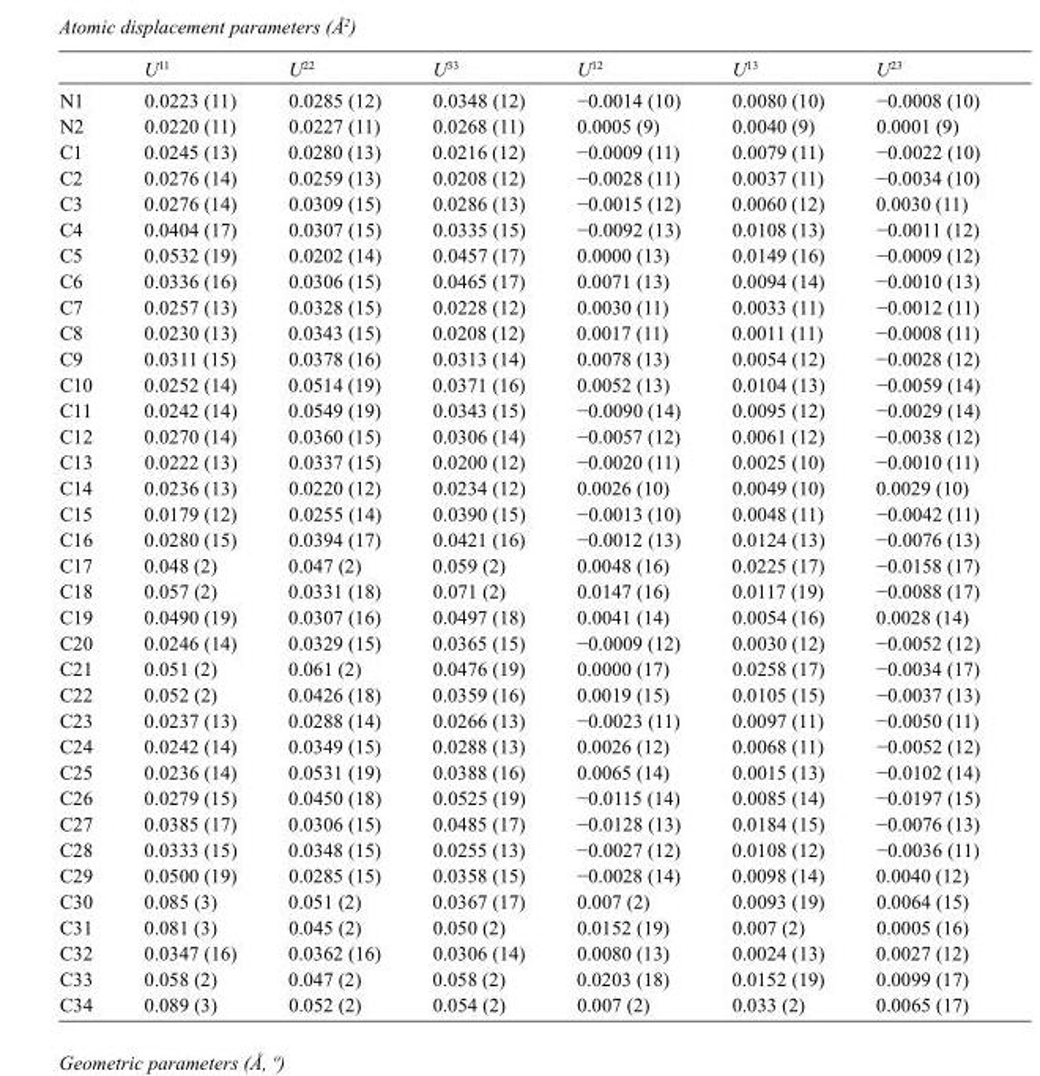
<table><thead><tr><td></td><td>U<sup>11</sup></td><td>U<sup>22</sup></td><td>U<sup>33</sup></td><td>U<sup>12</sup></td><td>U<sup>13</sup></td><td>U<sup>23</sup></td></tr></thead><tbody><tr><td>N1</td><td>0.0223 (11)</td><td>0.0285 (12)</td><td>0.0348 (12)</td><td>−0.0014 (10)</td><td>0.0080 (10)</td><td>−0.0008 (10)</td></tr><tr><td>N2</td><td>0.0220 (11)</td><td>0.0227 (11)</td><td>0.0268 (11)</td><td>0.0005 (9)</td><td>0.0040 (9)</td><td>0.0001 (9)</td></tr><tr><td>C1</td><td>0.0245 (13)</td><td>0.0280 (13)</td><td>0.0216 (12)</td><td>−0.0009 (11)</td><td>0.0079 (11)</td><td>−0.0022 (10)</td></tr><tr><td>C2</td><td>0.0276 (14)</td><td>0.0259 (13)</td><td>0.0208 (12)</td><td>−0.0028 (11)</td><td>0.0037 (11)</td><td>−0.0034 (10)</td></tr><tr><td>C3</td><td>0.0276 (14)</td><td>0.0309 (15)</td><td>0.0286 (13)</td><td>−0.0015 (12)</td><td>0.0060 (12)</td><td>0.0030 (11)</td></tr><tr><td>C4</td><td>0.0404 (17)</td><td>0.0307 (15)</td><td>0.0335 (15)</td><td>−0.0092 (13)</td><td>0.0108 (13)</td><td>−0.0011 (12)</td></tr><tr><td>C5</td><td>0.0532 (19)</td><td>0.0202 (14)</td><td>0.0457 (17)</td><td>0.0000 (13)</td><td>0.0149 (16)</td><td>−0.0009 (12)</td></tr><tr><td>C6</td><td>0.0336 (16)</td><td>0.0306 (15)</td><td>0.0465 (17)</td><td>0.0071 (13)</td><td>0.0094 (14)</td><td>−0.0010 (13)</td></tr><tr><td>C7</td><td>0.0257 (13)</td><td>0.0328 (15)</td><td>0.0228 (12)</td><td>0.0030 (11)</td><td>0.0033 (11)</td><td>−0.0012 (11)</td></tr><tr><td>C8</td><td>0.0230 (13)</td><td>0.0343 (15)</td><td>0.0208 (12)</td><td>0.0017 (11)</td><td>0.0011 (11)</td><td>−0.0008 (11)</td></tr><tr><td>C9</td><td>0.0311 (15)</td><td>0.0378 (16)</td><td>0.0313 (14)</td><td>0.0078 (13)</td><td>0.0054 (12)</td><td>−0.0028 (12)</td></tr><tr><td>C10</td><td>0.0252 (14)</td><td>0.0514 (19)</td><td>0.0371 (16)</td><td>0.0052 (13)</td><td>0.0104 (13)</td><td>−0.0059 (14)</td></tr><tr><td>C11</td><td>0.0242 (14)</td><td>0.0549 (19)</td><td>0.0343 (15)</td><td>−0.0090 (14)</td><td>0.0095 (12)</td><td>−0.0029 (14)</td></tr><tr><td>C12</td><td>0.0270 (14)</td><td>0.0360 (15)</td><td>0.0306 (14)</td><td>−0.0057 (12)</td><td>0.0061 (12)</td><td>−0.0038 (12)</td></tr><tr><td>C13</td><td>0.0222 (13)</td><td>0.0337 (15)</td><td>0.0200 (12)</td><td>−0.0020 (11)</td><td>0.0025 (10)</td><td>−0.0010 (11)</td></tr><tr><td>C14</td><td>0.0236 (13)</td><td>0.0220 (12)</td><td>0.0234 (12)</td><td>0.0026 (10)</td><td>0.0049 (10)</td><td>0.0029 (10)</td></tr><tr><td>C15</td><td>0.0179 (12)</td><td>0.0255 (14)</td><td>0.0390 (15)</td><td>−0.0013 (10)</td><td>0.0048 (11)</td><td>−0.0042 (11)</td></tr><tr><td>C16</td><td>0.0280 (15)</td><td>0.0394 (17)</td><td>0.0421 (16)</td><td>−0.0012 (13)</td><td>0.0124 (13)</td><td>−0.0076 (13)</td></tr><tr><td>C17</td><td>0.048 (2)</td><td>0.047 (2)</td><td>0.059 (2)</td><td>0.0048 (16)</td><td>0.0225 (17)</td><td>−0.0158 (17)</td></tr><tr><td>C18</td><td>0.057 (2)</td><td>0.0331 (18)</td><td>0.071 (2)</td><td>0.0147 (16)</td><td>0.0117 (19)</td><td>−0.0088 (17)</td></tr><tr><td>C19</td><td>0.0490 (19)</td><td>0.0307 (16)</td><td>0.0497 (18)</td><td>0.0041 (14)</td><td>0.0054 (16)</td><td>0.0028 (14)</td></tr><tr><td>C20</td><td>0.0246 (14)</td><td>0.0329 (15)</td><td>0.0365 (15)</td><td>−0.0009 (12)</td><td>0.0030 (12)</td><td>−0.0052 (12)</td></tr><tr><td>C21</td><td>0.051 (2)</td><td>0.061 (2)</td><td>0.0476 (19)</td><td>0.0000 (17)</td><td>0.0258 (17)</td><td>−0.0034 (17)</td></tr><tr><td>C22</td><td>0.052 (2)</td><td>0.0426 (18)</td><td>0.0359 (16)</td><td>0.0019 (15)</td><td>0.0105 (15)</td><td>−0.0037 (13)</td></tr><tr><td>C23</td><td>0.0237 (13)</td><td>0.0288 (14)</td><td>0.0266 (13)</td><td>−0.0023 (11)</td><td>0.0097 (11)</td><td>−0.0050 (11)</td></tr><tr><td>C24</td><td>0.0242 (14)</td><td>0.0349 (15)</td><td>0.0288 (13)</td><td>0.0026 (12)</td><td>0.0068 (11)</td><td>−0.0052 (12)</td></tr><tr><td>C25</td><td>0.0236 (14)</td><td>0.0531 (19)</td><td>0.0388 (16)</td><td>0.0065 (14)</td><td>0.0015 (13)</td><td>−0.0102 (14)</td></tr><tr><td>C26</td><td>0.0279 (15)</td><td>0.0450 (18)</td><td>0.0525 (19)</td><td>−0.0115 (14)</td><td>0.0085 (14)</td><td>−0.0197 (15)</td></tr><tr><td>C27</td><td>0.0385 (17)</td><td>0.0306 (15)</td><td>0.0485 (17)</td><td>−0.0128 (13)</td><td>0.0184 (15)</td><td>−0.0076 (13)</td></tr><tr><td>C28</td><td>0.0333 (15)</td><td>0.0348 (15)</td><td>0.0255 (13)</td><td>−0.0027 (12)</td><td>0.0108 (12)</td><td>−0.0036 (11)</td></tr><tr><td>C29</td><td>0.0500 (19)</td><td>0.0285 (15)</td><td>0.0358 (15)</td><td>−0.0028 (14)</td><td>0.0098 (14)</td><td>0.0040 (12)</td></tr><tr><td>C30</td><td>0.085 (3)</td><td>0.051 (2)</td><td>0.0367 (17)</td><td>0.007 (2)</td><td>0.0093 (19)</td><td>0.0064 (15)</td></tr><tr><td>C31</td><td>0.081 (3)</td><td>0.045 (2)</td><td>0.050 (2)</td><td>0.0152 (19)</td><td>0.007 (2)</td><td>0.0005 (16)</td></tr><tr><td>C32</td><td>0.0347 (16)</td><td>0.0362 (16)</td><td>0.0306 (14)</td><td>0.0080 (13)</td><td>0.0024 (13)</td><td>0.0027 (12)</td></tr><tr><td>C33</td><td>0.058 (2)</td><td>0.047 (2)</td><td>0.058 (2)</td><td>0.0203 (18)</td><td>0.0152 (19)</td><td>0.0099 (17)</td></tr><tr><td>C34</td><td>0.089 (3)</td><td>0.052 (2)</td><td>0.054 (2)</td><td>0.007 (2)</td><td>0.033 (2)</td><td>0.0065 (17)</td></tr></tbody></table>